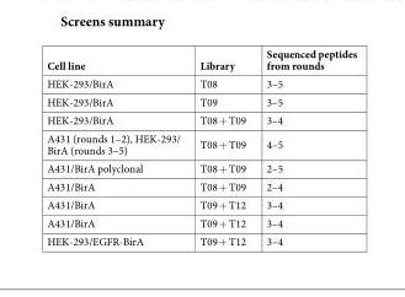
<table><tbody><tr><td>Cell line</td><td>Library</td><td>Sequenced peptides from rounds</td></tr><tr><td>HEK-293/BirA</td><td>T08</td><td>3–5</td></tr><tr><td>HEK-293/BirA</td><td>T09</td><td>3–5</td></tr><tr><td>HEK-293/BirA</td><td>T08 + T09</td><td>3–4</td></tr><tr><td>A431 (rounds 1–2), HEK-293/ BirA (rounds 3–5)</td><td>T08 + T09</td><td>4–5</td></tr><tr><td>A431/BirA polyclonal</td><td>T08 + T09</td><td>2–5</td></tr><tr><td>A431/BirA</td><td>T08 + T09</td><td>2–4</td></tr><tr><td>A431/BirA</td><td>T09 + T12</td><td>3–4</td></tr><tr><td>A431/BirA</td><td>T09 + T12</td><td>3–4</td></tr><tr><td>HEK-293/EGFR-BirA</td><td>T09 + T12</td><td>3–4</td></tr></tbody></table>